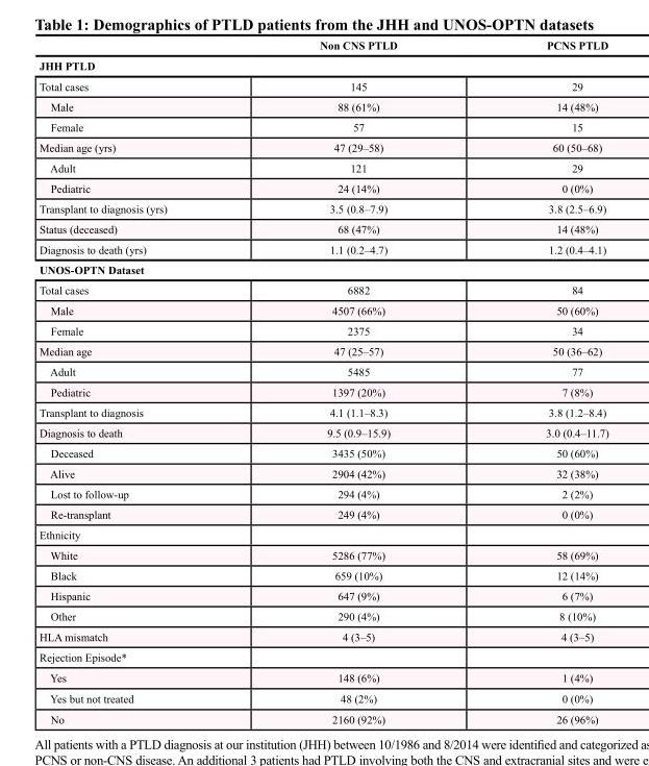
<table><thead><tr><td></td><td>Non CNS PTLD</td><td>PCNS PTLD</td></tr></thead><tbody><tr><td colspan="3">JHH PTLD</td></tr><tr><td>Total cases</td><td>145</td><td>29</td></tr><tr><td>Male</td><td>88 (61%)</td><td>14 (48%)</td></tr><tr><td>Female</td><td>57</td><td>15</td></tr><tr><td>Median age (yrs)</td><td>47 (29–58)</td><td>60 (50–68)</td></tr><tr><td>Adult</td><td>121</td><td>29</td></tr><tr><td>Pediatric</td><td>24 (14%)</td><td>0 (0%)</td></tr><tr><td>Transplant to diagnosis (yrs)</td><td>3.5 (0.8–7.9)</td><td>3.8 (2.5–6.9)</td></tr><tr><td>Status (deceased)</td><td>68 (47%)</td><td>14 (48%)</td></tr><tr><td>Diagnosis to death (yrs)</td><td>1.1 (0.2–4.7)</td><td>1.2 (0.4–4.1)</td></tr><tr><td colspan="3">UNOS-OPTN Dataset</td></tr><tr><td>Total cases</td><td>6882</td><td>84</td></tr><tr><td>Male</td><td>4507 (66%)</td><td>50 (60%)</td></tr><tr><td>Female</td><td>2375</td><td>34</td></tr><tr><td>Median age</td><td>47 (25–57)</td><td>50 (36–62)</td></tr><tr><td>Adult</td><td>5485</td><td>77</td></tr><tr><td>Pediatric</td><td>1397 (20%)</td><td>7 (8%)</td></tr><tr><td>Transplant to diagnosis</td><td>4.1 (1.1–8.3)</td><td>3.8 (1.2–8.4)</td></tr><tr><td>Diagnosis to death</td><td>9.5 (0.9–15.9)</td><td>3.0 (0.4–11.7)</td></tr><tr><td>Deceased</td><td>3435 (50%)</td><td>50 (60%)</td></tr><tr><td>Alive</td><td>2904 (42%)</td><td>32 (38%)</td></tr><tr><td>Lost to follow-up</td><td>294 (4%)</td><td>2 (2%)</td></tr><tr><td>Re-transplant</td><td>249 (4%)</td><td>0 (0%)</td></tr><tr><td colspan="3">Ethnicity</td></tr><tr><td>White</td><td>5286 (77%)</td><td>58 (69%)</td></tr><tr><td>Black</td><td>659 (10%)</td><td>12 (14%)</td></tr><tr><td>Hispanic</td><td>647 (9%)</td><td>6 (7%)</td></tr><tr><td>Other</td><td>290 (4%)</td><td>8 (10%)</td></tr><tr><td>HLA mismatch</td><td>4 (3–5)</td><td>4 (3–5)</td></tr><tr><td colspan="3">Rejection Episode*</td></tr><tr><td>Yes</td><td>148 (6%)</td><td>1 (4%)</td></tr><tr><td>Yes but not treated</td><td>48 (2%)</td><td>0 (0%)</td></tr><tr><td>No</td><td>2160 (92%)</td><td>26 (96%)</td></tr></tbody></table>